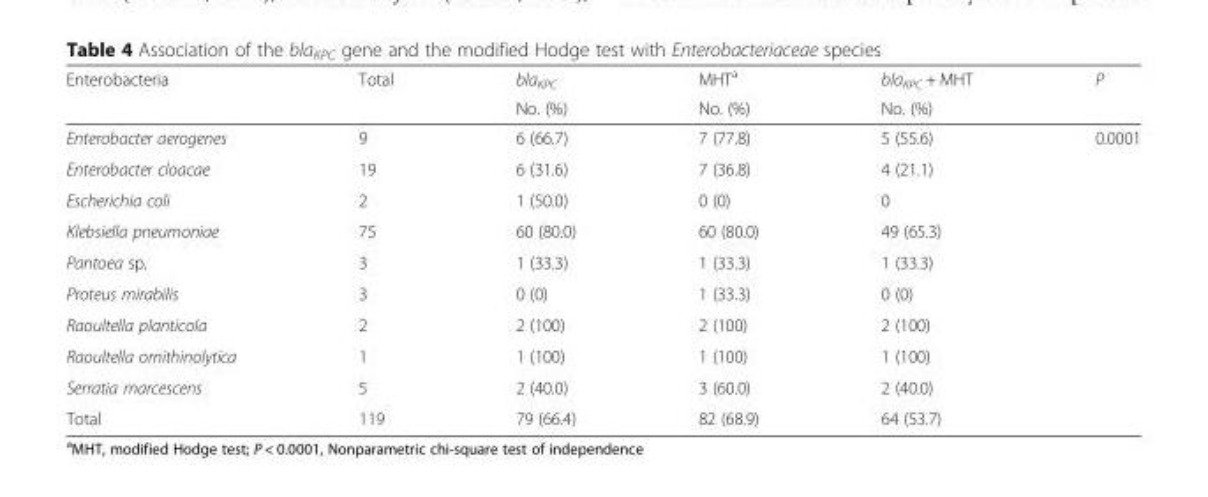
<table><thead><tr><td rowspan="2">Enterobacteria</td><td rowspan="2">Total</td><td rowspan="2">bla<sub>KPC</sub> No. (%)</td><td rowspan="2">MHT<sup>a</sup> No. (%)</td><td rowspan="2">bla<sub>KPC</sub> + MHT No. (%)</td><td rowspan="2">P</td></tr><tr></tr></thead><tbody><tr><td>Enterobacter aerogenes</td><td>9</td><td>6 (66.7)</td><td>7 (77.8)</td><td>5 (55.6)</td><td>0.0001</td></tr><tr><td>Enterobacter cloacae</td><td>19</td><td>6 (31.6)</td><td>7 (36.8)</td><td>4 (21.1)</td><td></td></tr><tr><td>Escherichia coli</td><td>2</td><td>1 (50.0)</td><td>0 (0)</td><td>0</td><td></td></tr><tr><td>Klebsiella pneumoniae</td><td>75</td><td>60 (80.0)</td><td>60 (80.0)</td><td>49 (65.3)</td><td></td></tr><tr><td>Pantoea sp.</td><td>3</td><td>1 (33.3)</td><td>1 (33.3)</td><td>1 (33.3)</td><td></td></tr><tr><td>Proteus mirabilis</td><td>3</td><td>0 (0)</td><td>1 (33.3)</td><td>0 (0)</td><td></td></tr><tr><td>Raoultella planticola</td><td>2</td><td>2 (100)</td><td>2 (100)</td><td>2 (100)</td><td></td></tr><tr><td>Raoultella ornithinolytica</td><td>1</td><td>1 (100)</td><td>1 (100)</td><td>1 (100)</td><td></td></tr><tr><td>Serratia marcescens</td><td>5</td><td>2 (40.0)</td><td>3 (60.0)</td><td>2 (40.0)</td><td></td></tr><tr><td>Total</td><td>119</td><td>79 (66.4)</td><td>82 (68.9)</td><td>64 (53.7)</td><td></td></tr></tbody></table>